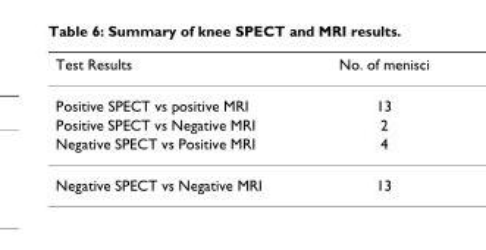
<table><thead><tr><td>Test Results</td><td>No. of menisci</td></tr></thead><tbody><tr><td>Positive SPECT vs positive MRI</td><td>13</td></tr><tr><td>Positive SPECT vs Negative MRI</td><td>2</td></tr><tr><td>Negative SPECT vs Positive MRI</td><td>4</td></tr><tr><td>Negative SPECT vs Negative MRI</td><td>13</td></tr></tbody></table>